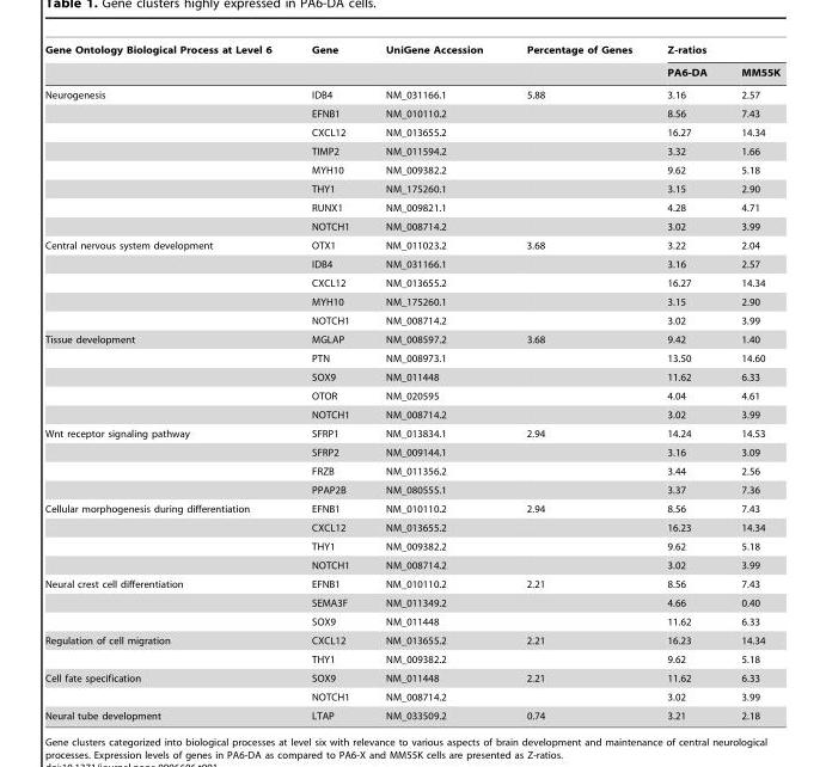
<table><thead><tr><td rowspan="2">Gene Ontology Biological Process at Level 6</td><td rowspan="2">Gene</td><td rowspan="2">UniGene Accession</td><td rowspan="2">Percentage of Genes</td><td colspan="2">Z-ratios</td></tr><tr><td>PA6-DA</td><td>MM55K</td></tr></thead><tbody><tr><td rowspan="8">Neurogenesis</td><td>IDB4</td><td>NM_031166.1</td><td>5.88</td><td>3.16</td><td>2.57</td></tr><tr><td>EFNB1</td><td>NM_010110.2</td><td></td><td>8.56</td><td>7.43</td></tr><tr><td>CXCL12</td><td>NM_013655.2</td><td></td><td>16.27</td><td>14.34</td></tr><tr><td>TIMP2</td><td>NM_011594.2</td><td></td><td>3.32</td><td>1.66</td></tr><tr><td>MYH10</td><td>NM_009382.2</td><td></td><td>9.62</td><td>5.18</td></tr><tr><td>THY1</td><td>NM_175260.1</td><td></td><td>3.15</td><td>2.90</td></tr><tr><td>RUNX1</td><td>NM_009821.1</td><td></td><td>4.28</td><td>4.71</td></tr><tr><td>NOTCH1</td><td>NM_008714.2</td><td></td><td>3.02</td><td>3.99</td></tr><tr><td rowspan="5">Central nervous system development</td><td>OTX1</td><td>NM_011023.2</td><td>3.68</td><td>3.22</td><td>2.04</td></tr><tr><td>IDB4</td><td>NM_031166.1</td><td></td><td>3.16</td><td>2.57</td></tr><tr><td>CXCL12</td><td>NM_013655.2</td><td></td><td>16.27</td><td>14.34</td></tr><tr><td>MYH10</td><td>NM_175260.1</td><td></td><td>3.15</td><td>2.90</td></tr><tr><td>NOTCH1</td><td>NM_008714.2</td><td></td><td>3.02</td><td>3.99</td></tr><tr><td rowspan="5">Tissue development</td><td>MGLAP</td><td>NM_008597.2</td><td>3.68</td><td>9.42</td><td>1.40</td></tr><tr><td>PTN</td><td>NM_008973.1</td><td></td><td>13.50</td><td>14.60</td></tr><tr><td>SOX9</td><td>NM_011448</td><td></td><td>11.62</td><td>6.33</td></tr><tr><td>OTOR</td><td>NM_020595</td><td></td><td>4.04</td><td>4.61</td></tr><tr><td>NOTCH1</td><td>NM_008714.2</td><td></td><td>3.02</td><td>3.99</td></tr><tr><td rowspan="4">Wnt receptor signaling pathway</td><td>SFRP1</td><td>NM_013834.1</td><td>2.94</td><td>14.24</td><td>14.53</td></tr><tr><td>SFRP2</td><td>NM_009144.1</td><td></td><td>3.16</td><td>3.09</td></tr><tr><td>FRZB</td><td>NM_011356.2</td><td></td><td>3.44</td><td>2.56</td></tr><tr><td>PPAP2B</td><td>NM_080555.1</td><td></td><td>3.37</td><td>7.36</td></tr><tr><td rowspan="4">Cellular morphogenesis during differentiation</td><td>EFNB1</td><td>NM_010110.2</td><td>2.94</td><td>8.56</td><td>7.43</td></tr><tr><td>CXCL12</td><td>NM_013655.2</td><td></td><td>16.23</td><td>14.34</td></tr><tr><td>THY1</td><td>NM_009382.2</td><td></td><td>9.62</td><td>5.18</td></tr><tr><td>NOTCH1</td><td>NM_008714.2</td><td></td><td>3.02</td><td>3.99</td></tr><tr><td rowspan="3">Neural crest cell differentiation</td><td>EFNB1</td><td>NM_010110.2</td><td>2.21</td><td>8.56</td><td>7.43</td></tr><tr><td>SEMA3F</td><td>NM_011349.2</td><td></td><td>4.66</td><td>0.40</td></tr><tr><td>SOX9</td><td>NM_011448</td><td></td><td>11.62</td><td>6.33</td></tr><tr><td rowspan="2">Regulation of cell migration</td><td>CXCL12</td><td>NM_013655.2</td><td>2.21</td><td>16.23</td><td>14.34</td></tr><tr><td>THY1</td><td>NM_009382.2</td><td></td><td>9.62</td><td>5.18</td></tr><tr><td rowspan="2">Cell fate specification</td><td>SOX9</td><td>NM_011448</td><td>2.21</td><td>11.62</td><td>6.33</td></tr><tr><td>NOTCH1</td><td>NM_008714.2</td><td></td><td>3.02</td><td>3.99</td></tr><tr><td>Neural tube development</td><td>LTAP</td><td>NM_033509.2</td><td>0.74</td><td>3.21</td><td>2.18</td></tr></tbody></table>